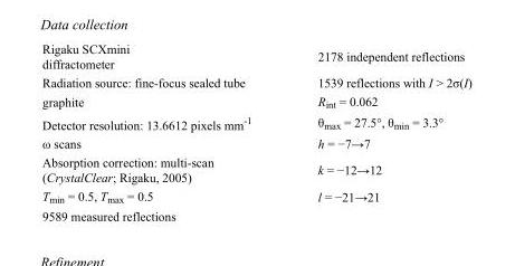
<table><tbody><tr><td>Rigaku SCXmini diffractometer</td><td>2178 independent reflections</td></tr><tr><td>Radiation source: fine-focus sealed tube</td><td>1539 reflections with I &gt; 2σ(I)</td></tr><tr><td>graphite</td><td>R<sub>int</sub> = 0.062</td></tr><tr><td>Detector resolution: 13.6612 pixels mm<sup>-1</sup></td><td>θ<sub>max</sub> = 27.5°, θ<sub>min</sub> = 3.3°</td></tr><tr><td>ω scans</td><td>h = −7→7</td></tr><tr><td>Absorption correction: multi-scan (CrystalClear; Rigaku, 2005)</td><td>k = −12→12</td></tr><tr><td>T<sub>min</sub> = 0.5, T<sub>max</sub> = 0.5</td><td>l = −21→21</td></tr><tr><td>9589 measured reflections</td><td></td></tr></tbody></table>